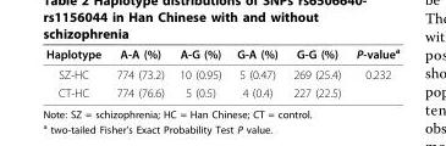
<table><thead><tr><td>Haplotype</td><td>A-A (%)</td><td>A-G (%)</td><td>G-A (%)</td><td>G-G (%)</td><td>P-value<sup>a</sup></td></tr></thead><tbody><tr><td>SZ-HC</td><td>774 (73.2)</td><td>10 (0.95)</td><td>5 (0.47)</td><td>269 (25.4)</td><td>0.232</td></tr><tr><td>CT-HC</td><td>774 (76.6)</td><td>5 (0.5)</td><td>4 (0.4)</td><td>227 (22.5)</td><td></td></tr></tbody></table>